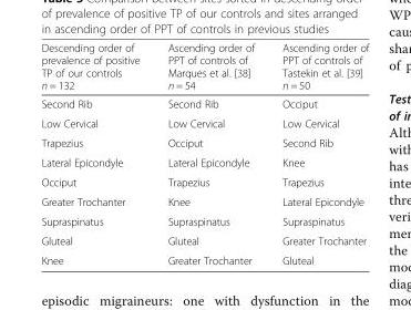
<table><thead><tr><td>Descending order of prevalence of positive TP of our controls n = 132</td><td>Ascending order of PPT of controls of Marques et al. [38] n = 54</td><td>Ascending order of PPT of controls of Tastekin et al. [39] n = 50</td></tr></thead><tbody><tr><td>Second Rib</td><td>Second Rib</td><td>Occiput</td></tr><tr><td>Low Cervical</td><td>Low Cervical</td><td>Low Cervical</td></tr><tr><td>Trapezius</td><td>Occiput</td><td>Second Rib</td></tr><tr><td>Lateral Epicondyle</td><td>Lateral Epicondyle</td><td>Knee</td></tr><tr><td>Occiput</td><td>Trapezius</td><td>Trapezius</td></tr><tr><td>Greater Trochanter</td><td>Knee</td><td>Lateral Epicondyle</td></tr><tr><td>Supraspinatus</td><td>Supraspinatus</td><td>Supraspinatus</td></tr><tr><td>Gluteal</td><td>Gluteal</td><td>Greater Trochanter</td></tr><tr><td>Knee</td><td>Greater Trochanter</td><td>Gluteal</td></tr></tbody></table>